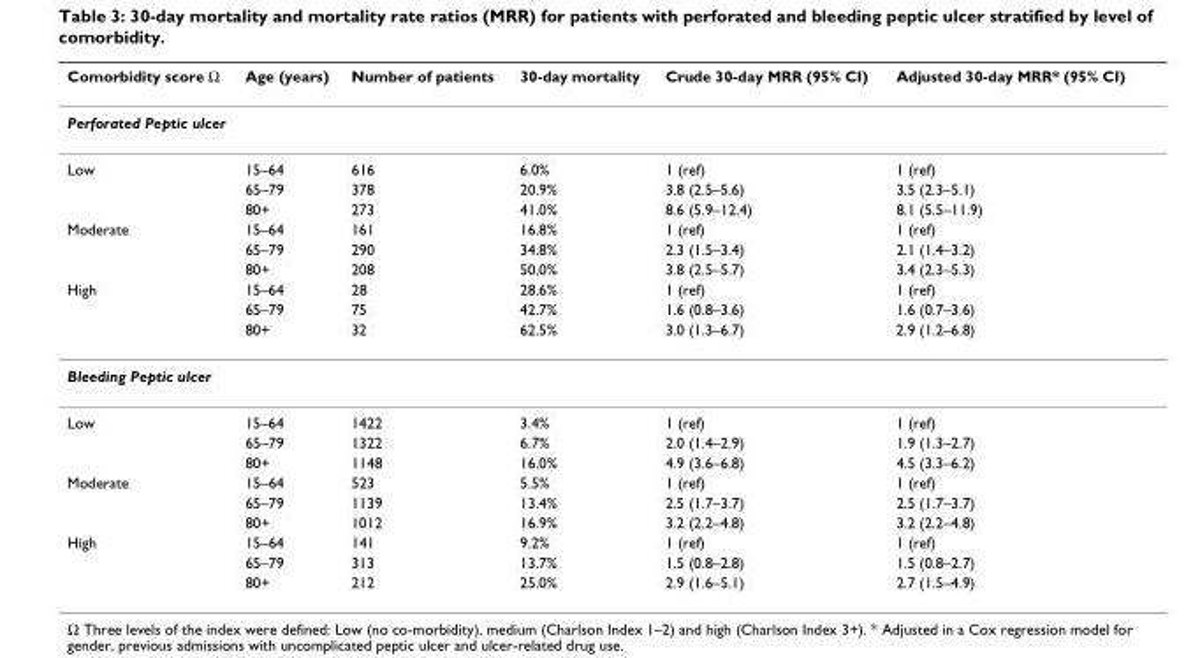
<table><thead><tr><td>Comorbidity score Ω</td><td>Age (years)</td><td>Number of patients</td><td>30-day mortality</td><td>Crude 30-day MRR (95% CI)</td><td>Adjusted 30-day MRR* (95% CI)</td></tr></thead><tbody><tr><td colspan="6">Perforated Peptic ulcer</td></tr><tr><td rowspan="3">Low</td><td>15–64</td><td>616</td><td>6.0%</td><td>1 (ref)</td><td>1 (ref)</td></tr><tr><td>65–79</td><td>378</td><td>20.9%</td><td>3.8 (2.5–5.6)</td><td>3.5 (2.3–5.1)</td></tr><tr><td>80+</td><td>273</td><td>41.0%</td><td>8.6 (5.9–12.4)</td><td>8.1 (5.5–11.9)</td></tr><tr><td rowspan="3">Moderate</td><td>15–64</td><td>161</td><td>16.8%</td><td>1 (ref)</td><td>1 (ref)</td></tr><tr><td>65–79</td><td>290</td><td>34.8%</td><td>2.3 (1.5–3.4)</td><td>2.1 (1.4–3.2)</td></tr><tr><td>80+</td><td>208</td><td>50.0%</td><td>3.8 (2.5–5.7)</td><td>3.4 (2.3–5.3)</td></tr><tr><td rowspan="3">High</td><td>15–64</td><td>28</td><td>28.6%</td><td>1 (ref)</td><td>1 (ref)</td></tr><tr><td>65–79</td><td>75</td><td>42.7%</td><td>1.6 (0.8–3.6)</td><td>1.6 (0.7–3.6)</td></tr><tr><td>80+</td><td>32</td><td>62.5%</td><td>3.0 (1.3–6.7)</td><td>2.9 (1.2–6.8)</td></tr><tr><td colspan="6">Bleeding Peptic ulcer</td></tr><tr><td rowspan="3">Low</td><td>15–64</td><td>1422</td><td>3.4%</td><td>1 (ref)</td><td>1 (ref)</td></tr><tr><td>65–79</td><td>1322</td><td>6.7%</td><td>2.0 (1.4–2.9)</td><td>1.9 (1.3–2.7)</td></tr><tr><td>80+</td><td>1148</td><td>16.0%</td><td>4.9 (3.6–6.8)</td><td>4.5 (3.3–6.2)</td></tr><tr><td rowspan="3">Moderate</td><td>15–64</td><td>523</td><td>5.5%</td><td>1 (ref)</td><td>1 (ref)</td></tr><tr><td>65–79</td><td>1139</td><td>13.4%</td><td>2.5 (1.7–3.7)</td><td>2.5 (1.7–3.7)</td></tr><tr><td>80+</td><td>1012</td><td>16.9%</td><td>3.2 (2.2–4.8)</td><td>3.2 (2.2–4.8)</td></tr><tr><td rowspan="3">High</td><td>15–64</td><td>141</td><td>9.2%</td><td>1 (ref)</td><td>1 (ref)</td></tr><tr><td>65–79</td><td>313</td><td>13.7%</td><td>1.5 (0.8–2.8)</td><td>1.5 (0.8–2.7)</td></tr><tr><td>80+</td><td>212</td><td>25.0%</td><td>2.9 (1.6–5.1)</td><td>2.7 (1.5–4.9)</td></tr></tbody></table>